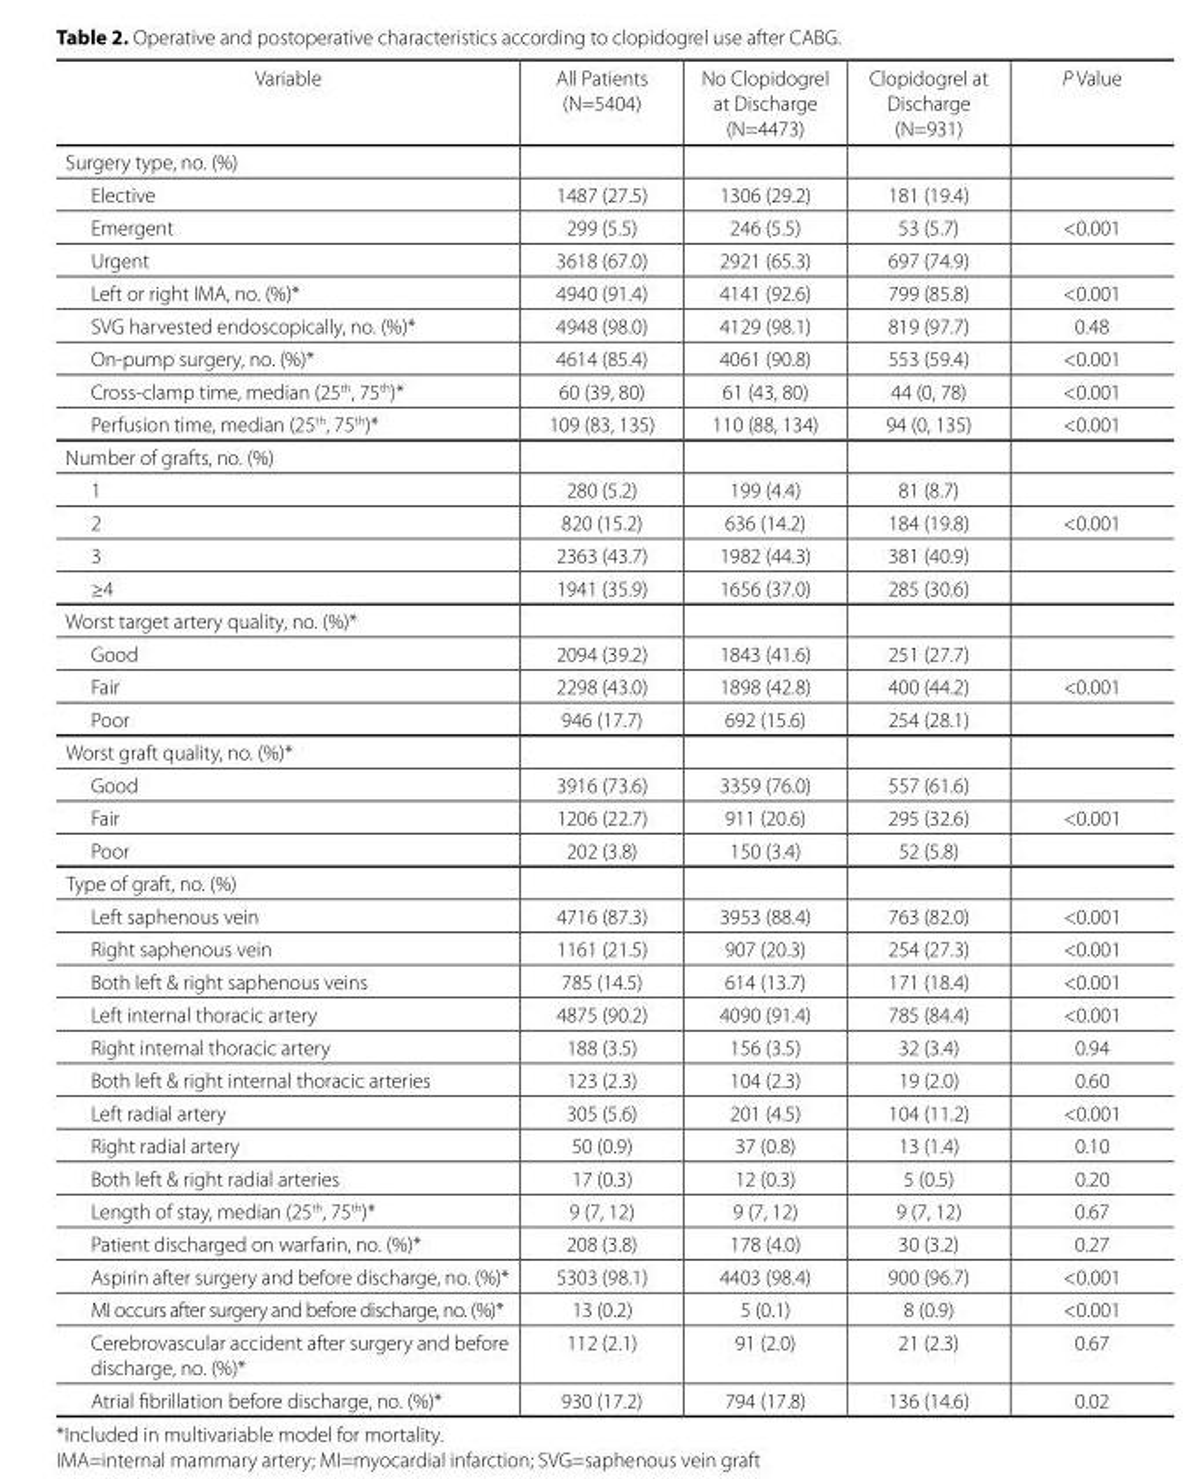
<table><thead><tr><td>Variable</td><td>All Patients (N=5404)</td><td>No Clopidogrel at Discharge (N=4473)</td><td>Clopidogrel at Discharge (N=931)</td><td>P Value</td></tr></thead><tbody><tr><td colspan="5">Surgery type, no. (%)</td></tr><tr><td>Elective</td><td>1487 (27.5)</td><td>1306 (29.2)</td><td>181 (19.4)</td><td></td></tr><tr><td>Emergent</td><td>299 (5.5)</td><td>246 (5.5)</td><td>53 (5.7)</td><td>&lt;0.001</td></tr><tr><td>Urgent</td><td>3618 (67.0)</td><td>2921 (65.3)</td><td>697 (74.9)</td><td></td></tr><tr><td>Left or right IMA, no. (%)*</td><td>4940 (91.4)</td><td>4141 (92.6)</td><td>799 (85.8)</td><td>&lt;0.001</td></tr><tr><td>SVG harvested endoscopically, no. (%)*</td><td>4948 (98.0)</td><td>4129 (98.1)</td><td>819 (97.7)</td><td>0.48</td></tr><tr><td>On-pump surgery, no. (%)*</td><td>4614 (85.4)</td><td>4061 (90.8)</td><td>553 (59.4)</td><td>&lt;0.001</td></tr><tr><td>Cross-clamp time, median (25<sup>th</sup>, 75<sup>th</sup>)*</td><td>60 (39, 80)</td><td>61 (43, 80)</td><td>44 (0, 78)</td><td>&lt;0.001</td></tr><tr><td>Perfusion time, median (25<sup>th</sup>, 75<sup>th</sup>)*</td><td>109 (83, 135)</td><td>110 (88, 134)</td><td>94 (0, 135)</td><td>&lt;0.001</td></tr><tr><td colspan="5">Number of grafts, no. (%)</td></tr><tr><td>1</td><td>280 (5.2)</td><td>199 (4.4)</td><td>81 (8.7)</td><td></td></tr><tr><td>2</td><td>820 (15.2)</td><td>636 (14.2)</td><td>184 (19.8)</td><td>&lt;0.001</td></tr><tr><td>3</td><td>2363 (43.7)</td><td>1982 (44.3)</td><td>381 (40.9)</td><td></td></tr><tr><td>≥4</td><td>1941 (35.9)</td><td>1656 (37.0)</td><td>285 (30.6)</td><td></td></tr><tr><td colspan="5">Worst target artery quality, no. (%)*</td></tr><tr><td>Good</td><td>2094 (39.2)</td><td>1843 (41.6)</td><td>251 (27.7)</td><td></td></tr><tr><td>Fair</td><td>2298 (43.0)</td><td>1898 (42.8)</td><td>400 (44.2)</td><td>&lt;0.001</td></tr><tr><td>Poor</td><td>946 (17.7)</td><td>692 (15.6)</td><td>254 (28.1)</td><td></td></tr><tr><td colspan="5">Worst graft quality, no. (%)*</td></tr><tr><td>Good</td><td>3916 (73.6)</td><td>3359 (76.0)</td><td>557 (61.6)</td><td></td></tr><tr><td>Fair</td><td>1206 (22.7)</td><td>911 (20.6)</td><td>295 (32.6)</td><td>&lt;0.001</td></tr><tr><td>Poor</td><td>202 (3.8)</td><td>150 (3.4)</td><td>52 (5.8)</td><td></td></tr><tr><td colspan="5">Type of graft, no. (%)</td></tr><tr><td>Left saphenous vein</td><td>4716 (87.3)</td><td>3953 (88.4)</td><td>763 (82.0)</td><td>&lt;0.001</td></tr><tr><td>Right saphenous vein</td><td>1161 (21.5)</td><td>907 (20.3)</td><td>254 (27.3)</td><td>&lt;0.001</td></tr><tr><td>Both left &amp; right saphenous veins</td><td>785 (14.5)</td><td>614 (13.7)</td><td>171 (18.4)</td><td>&lt;0.001</td></tr><tr><td>Left internal thoracic artery</td><td>4875 (90.2)</td><td>4090 (91.4)</td><td>785 (84.4)</td><td>&lt;0.001</td></tr><tr><td>Right internal thoracic artery</td><td>188 (3.5)</td><td>156 (3.5)</td><td>32 (3.4)</td><td>0.94</td></tr><tr><td>Both left &amp; right internal thoracic arteries</td><td>123 (2.3)</td><td>104 (2.3)</td><td>19 (2.0)</td><td>0.60</td></tr><tr><td>Left radial artery</td><td>305 (5.6)</td><td>201 (4.5)</td><td>104 (11.2)</td><td>&lt;0.001</td></tr><tr><td>Right radial artery</td><td>50 (0.9)</td><td>37 (0.8)</td><td>13 (1.4)</td><td>0.10</td></tr><tr><td>Both left &amp; right radial arteries</td><td>17 (0.3)</td><td>12 (0.3)</td><td>5 (0.5)</td><td>0.20</td></tr><tr><td>Length of stay, median (25<sup>th</sup>, 75<sup>th</sup>)*</td><td>9 (7, 12)</td><td>9 (7, 12)</td><td>9 (7, 12)</td><td>0.67</td></tr><tr><td>Patient discharged on warfarin, no. (%)*</td><td>208 (3.8)</td><td>178 (4.0)</td><td>30 (3.2)</td><td>0.27</td></tr><tr><td>Aspirin after surgery and before discharge, no. (%)*</td><td>5303 (98.1)</td><td>4403 (98.4)</td><td>900 (96.7)</td><td>&lt;0.001</td></tr><tr><td>MI occurs after surgery and before discharge, no. (%)*</td><td>13 (0.2)</td><td>5 (0.1)</td><td>8 (0.9)</td><td>&lt;0.001</td></tr><tr><td>Cerebrovascular accident after surgery and before discharge, no. (%)*</td><td>112 (2.1)</td><td>91 (2.0)</td><td>21 (2.3)</td><td>0.67</td></tr><tr><td>Atrial fibrillation before discharge, no. (%)*</td><td>930 (17.2)</td><td>794 (17.8)</td><td>136 (14.6)</td><td>0.02</td></tr></tbody></table>